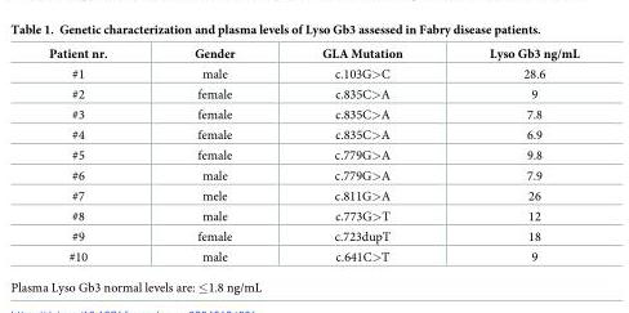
<table><thead><tr><td>Patient nr.</td><td>Gender</td><td>GLA Mutation</td><td>Lyso Gb3 ng/mL</td></tr></thead><tbody><tr><td>#1</td><td>male</td><td>c.103G&gt;C</td><td>28.6</td></tr><tr><td>#2</td><td>female</td><td>c.835C&gt;A</td><td>9</td></tr><tr><td>#3</td><td>female</td><td>c.835C&gt;A</td><td>7.8</td></tr><tr><td>#4</td><td>female</td><td>c.835C&gt;A</td><td>6.9</td></tr><tr><td>#5</td><td>female</td><td>c.779G&gt;A</td><td>9.8</td></tr><tr><td>#6</td><td>male</td><td>c.779G&gt;A</td><td>7.9</td></tr><tr><td>#7</td><td>mele</td><td>c.811G&gt;A</td><td>26</td></tr><tr><td>#8</td><td>male</td><td>c.773G&gt;T</td><td>12</td></tr><tr><td>#9</td><td>female</td><td>c.723dupT</td><td>18</td></tr><tr><td>#10</td><td>male</td><td>c.641C&gt;T</td><td>9</td></tr></tbody></table>